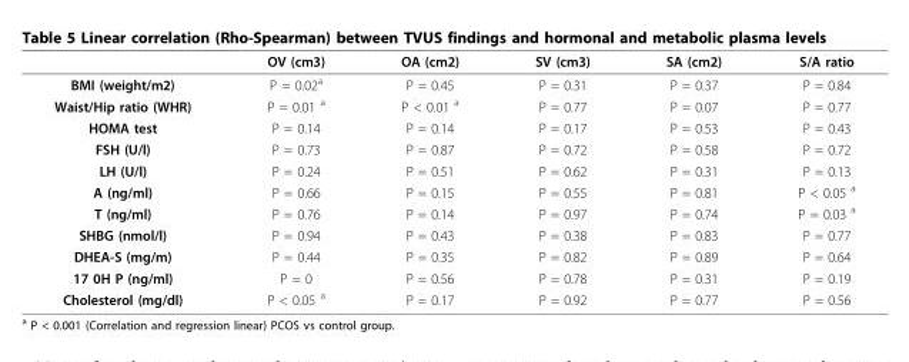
<table><thead><tr><td></td><td>OV (cm3)</td><td>OA (cm2)</td><td>SV (cm3)</td><td>SA (cm2)</td><td>S/A ratio</td></tr></thead><tbody><tr><td>BMI (weight/m2)</td><td>P = 0.02<sup>a</sup></td><td>P = 0.45</td><td>P = 0.31</td><td>P = 0.37</td><td>P = 0.84</td></tr><tr><td>Waist/Hip ratio (WHR)</td><td>P = 0.01 <sup>a</sup></td><td>P &lt; 0.01 <sup>a</sup></td><td>P = 0.77</td><td>P = 0.07</td><td>P = 0.77</td></tr><tr><td>HOMA test</td><td>P = 0.14</td><td>P = 0.14</td><td>P = 0.17</td><td>P = 0.53</td><td>P = 0.43</td></tr><tr><td>FSH (U/l)</td><td>P = 0.73</td><td>P = 0.87</td><td>P = 0.72</td><td>P = 0.58</td><td>P = 0.72</td></tr><tr><td>LH (U/l)</td><td>P = 0.24</td><td>P = 0.51</td><td>P = 0.62</td><td>P = 0.31</td><td>P = 0.13</td></tr><tr><td>A (ng/ml)</td><td>P = 0.66</td><td>P = 0.15</td><td>P = 0.55</td><td>P = 0.81</td><td>P &lt; 0.05 <sup>a</sup></td></tr><tr><td>T (ng/ml)</td><td>P = 0.76</td><td>P = 0.14</td><td>P = 0.97</td><td>P = 0.74</td><td>P = 0.03 <sup>a</sup></td></tr><tr><td>SHBG (nmol/l)</td><td>P = 0.94</td><td>P = 0.43</td><td>P = 0.38</td><td>P = 0.83</td><td>P = 0.77</td></tr><tr><td>DHEA-S (mg/m)</td><td>P = 0.44</td><td>P = 0.35</td><td>P = 0.82</td><td>P = 0.89</td><td>P = 0.64</td></tr><tr><td>17 0H P (ng/ml)</td><td>P = 0</td><td>P = 0.56</td><td>P = 0.78</td><td>P = 0.31</td><td>P = 0.19</td></tr><tr><td>Cholesterol (mg/dl)</td><td>P &lt; 0.05 <sup>a</sup></td><td>P = 0.17</td><td>P = 0.92</td><td>P = 0.77</td><td>P = 0.56</td></tr></tbody></table>